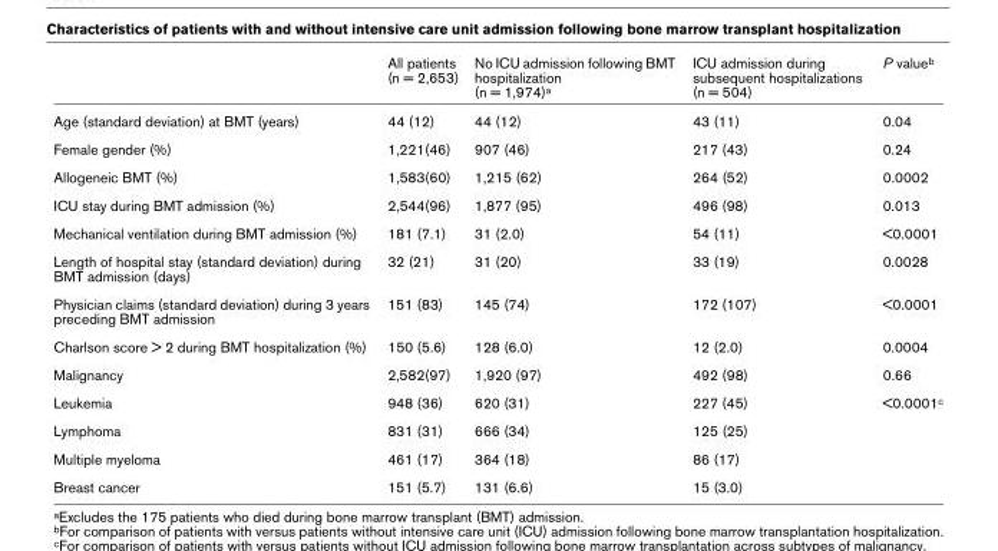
<table><thead><tr><td></td><td>All patients (n = 2,653)</td><td>No ICU admission following BMT hospitalization (n = 1,974)<sup>a</sup></td><td>ICU admission during subsequent hospitalizations (n = 504)</td><td>P value<sup>b</sup></td></tr></thead><tbody><tr><td>Age (standard deviation) at BMT (years)</td><td>44 (12)</td><td>44 (12)</td><td>43 (11)</td><td>0.04</td></tr><tr><td>Female gender (%)</td><td>1,221(46)</td><td>907 (46)</td><td>217 (43)</td><td>0.24</td></tr><tr><td>Allogeneic BMT (%)</td><td>1,583(60)</td><td>1,215 (62)</td><td>264 (52)</td><td>0.0002</td></tr><tr><td>ICU stay during BMT admission (%)</td><td>2,544(96)</td><td>1,877 (95)</td><td>496 (98)</td><td>0.013</td></tr><tr><td>Mechanical ventilation during BMT admission (%)</td><td>181 (7.1)</td><td>31 (2.0)</td><td>54 (11)</td><td>&lt;0.0001</td></tr><tr><td>Length of hospital stay (standard deviation) during BMT admission (days)</td><td>32 (21)</td><td>31 (20)</td><td>33 (19)</td><td>0.0028</td></tr><tr><td>Physician claims (standard deviation) during 3 years preceding BMT admission</td><td>151 (83)</td><td>145 (74)</td><td>172 (107)</td><td>&lt;0.0001</td></tr><tr><td>Charlson score &gt; 2 during BMT hospitalization (%)</td><td>150 (5.6)</td><td>128 (6.0)</td><td>12 (2.0)</td><td>0.0004</td></tr><tr><td>Malignancy</td><td>2,582(97)</td><td>1,920 (97)</td><td>492 (98)</td><td>0.66</td></tr><tr><td>Leukemia</td><td>948 (36)</td><td>620 (31)</td><td>227 (45)</td><td>&lt;0.0001<sup>c</sup></td></tr><tr><td>Lymphoma</td><td>831 (31)</td><td>666 (34)</td><td>125 (25)</td><td></td></tr><tr><td>Multiple myeloma</td><td>461 (17)</td><td>364 (18)</td><td>86 (17)</td><td></td></tr><tr><td>Breast cancer</td><td>151 (5.7)</td><td>131 (6.6)</td><td>15 (3.0)</td><td></td></tr></tbody></table>